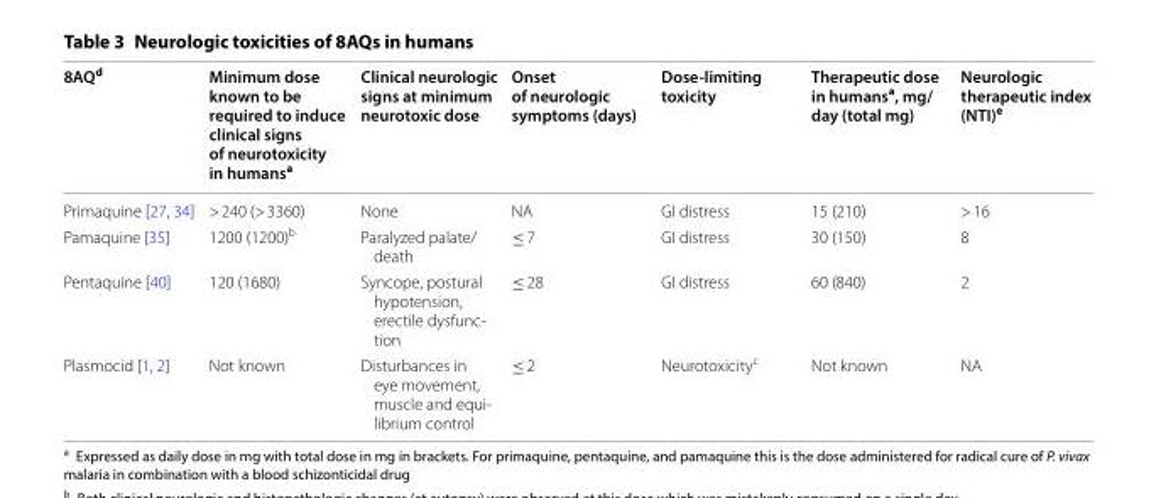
<table><thead><tr><td>8AQ<sup>d</sup></td><td>Minimum dose known to be required to induce clinical signs of neurotoxicity in humans<sup>a</sup></td><td>Clinical neurologic signs at minimum neurotoxic dose</td><td>Onset of neurologic symptoms (days)</td><td>Dose-limiting toxicity</td><td>Therapeutic dose in humans<sup>a</sup>, mg/ day (total mg)</td><td>Neurologic therapeutic index (NTI)<sup>e</sup></td></tr></thead><tbody><tr><td>Primaquine [27, 34]</td><td>&gt; 240 (&gt; 3360)</td><td>None</td><td>NA</td><td>GI distress</td><td>15 (210)</td><td>&gt; 16</td></tr><tr><td>Pamaquine [35]</td><td>1200 (1200)<sup>b</sup></td><td>Paralyzed palate/ death</td><td>≤ 7</td><td>GI distress</td><td>30 (150)</td><td>8</td></tr><tr><td>Pentaquine [40]</td><td>120 (1680)</td><td>Syncope, postural hypotension, erectile dysfunc- tion</td><td>≤ 28</td><td>GI distress</td><td>60 (840)</td><td>2</td></tr><tr><td>Plasmocid [1, 2]</td><td>Not known</td><td>Disturbances in eye movement, muscle and equi- librium control</td><td>≤ 2</td><td>Neurotoxicity<sup>c</sup></td><td>Not known</td><td>NA</td></tr></tbody></table>